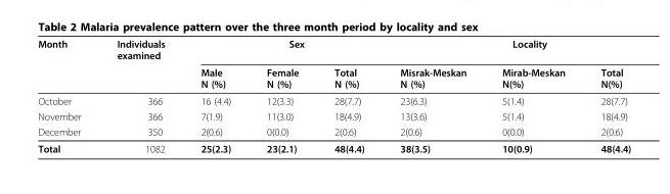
<table><thead><tr><td rowspan="2">Month</td><td rowspan="2">Individuals examined</td><td colspan="3">Sex</td><td colspan="3">Locality</td></tr><tr><td>Male N (%)</td><td>Female N (%)</td><td>Total N (%)</td><td>Misrak-Meskan N (%)</td><td>Mirab-Meskan N(%)</td><td>Total N(%)</td></tr></thead><tbody><tr><td>October</td><td>366</td><td>16 (4.4)</td><td>12(3.3)</td><td>28(7.7)</td><td>23(6.3)</td><td>5(1.4)</td><td>28(7.7)</td></tr><tr><td>November</td><td>366</td><td>7(1.9)</td><td>11(3.0)</td><td>18(4.9)</td><td>13(3.6)</td><td>5(1.4)</td><td>18(4.9)</td></tr><tr><td>December</td><td>350</td><td>2(0.6)</td><td>0(0.0)</td><td>2(0.6)</td><td>2(0.6)</td><td>0(0.0)</td><td>2(0.6)</td></tr><tr><td>Total</td><td>1082</td><td>25(2.3)</td><td>23(2.1)</td><td>48(4.4)</td><td>38(3.5)</td><td>10(0.9)</td><td>48(4.4)</td></tr></tbody></table>